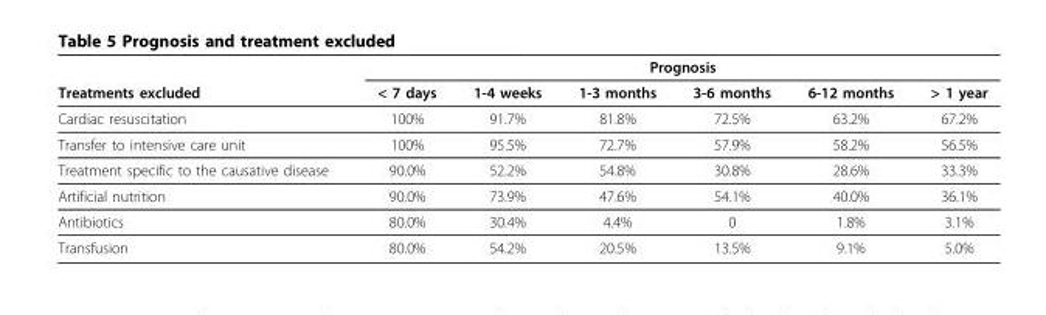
<table><thead><tr><td rowspan="2">Treatments excluded</td><td colspan="6">Prognosis</td></tr><tr><td>&lt; 7 days</td><td>1-4 weeks</td><td>1-3 months</td><td>3-6 months</td><td>6-12 months</td><td>&gt; 1 year</td></tr></thead><tbody><tr><td>Cardiac resuscitation</td><td>100%</td><td>91.7%</td><td>81.8%</td><td>72.5%</td><td>63.2%</td><td>67.2%</td></tr><tr><td>Transfer to intensive care unit</td><td>100%</td><td>95.5%</td><td>72.7%</td><td>57.9%</td><td>58.2%</td><td>56.5%</td></tr><tr><td>Treatment specific to the causative disease</td><td>90.0%</td><td>52.2%</td><td>54.8%</td><td>30.8%</td><td>28.6%</td><td>33.3%</td></tr><tr><td>Artificial nutrition</td><td>90.0%</td><td>73.9%</td><td>47.6%</td><td>54.1%</td><td>40.0%</td><td>36.1%</td></tr><tr><td>Antibiotics</td><td>80.0%</td><td>30.4%</td><td>4.4%</td><td>0</td><td>1.8%</td><td>3.1%</td></tr><tr><td>Transfusion</td><td>80.0%</td><td>54.2%</td><td>20.5%</td><td>13.5%</td><td>9.1%</td><td>5.0%</td></tr></tbody></table>